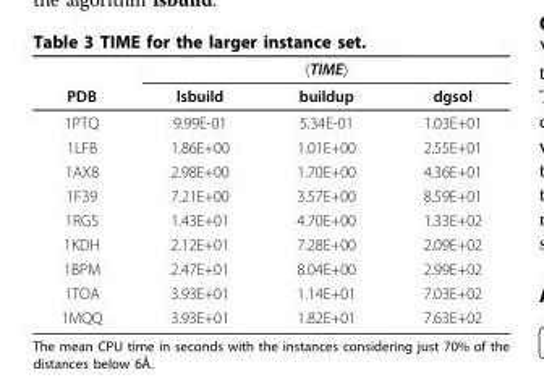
<table><thead><tr><td rowspan="2">PDB</td><td colspan="3">〈TIME〉</td></tr><tr><td>lsbuild</td><td>buildup</td><td>dgsol</td></tr></thead><tbody><tr><td>1PTQ</td><td>9.99E-01</td><td>5.34E-01</td><td>1.03E+01</td></tr><tr><td>1LFB</td><td>1.86E+00</td><td>1.01E+00</td><td>2.55E+01</td></tr><tr><td>1AX8</td><td>2.98E+00</td><td>1.70E+00</td><td>4.36E+01</td></tr><tr><td>1F39</td><td>7.21E+00</td><td>3.57E+00</td><td>8.59E+01</td></tr><tr><td>1RGS</td><td>1.43E+01</td><td>4.70E+00</td><td>1.33E+02</td></tr><tr><td>1KDH</td><td>2.12E+01</td><td>7.28E+00</td><td>2.09E+02</td></tr><tr><td>1BPM</td><td>2.47E+01</td><td>8.04E+00</td><td>2.99E+02</td></tr><tr><td>1TOA</td><td>3.93E+01</td><td>1.14E+01</td><td>7.03E+02</td></tr><tr><td>1MQQ</td><td>3.93E+01</td><td>1.82E+01</td><td>7.63E+02</td></tr></tbody></table>